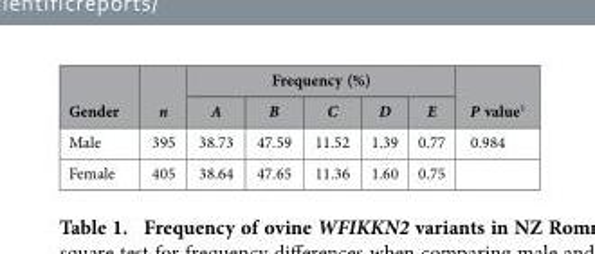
<table><thead><tr><td rowspan="2">Gender</td><td rowspan="2">n</td><td colspan="5">Frequency (%)</td><td rowspan="2">P value<sup>1</sup></td></tr><tr><td>A</td><td>B</td><td>C</td><td>D</td><td>E</td></tr></thead><tbody><tr><td>Male</td><td>395</td><td>38.73</td><td>47.59</td><td>11.52</td><td>1.39</td><td>0.77</td><td>0.984</td></tr><tr><td>Female</td><td>405</td><td>38.64</td><td>47.65</td><td>11.36</td><td>1.60</td><td>0.75</td><td></td></tr></tbody></table>